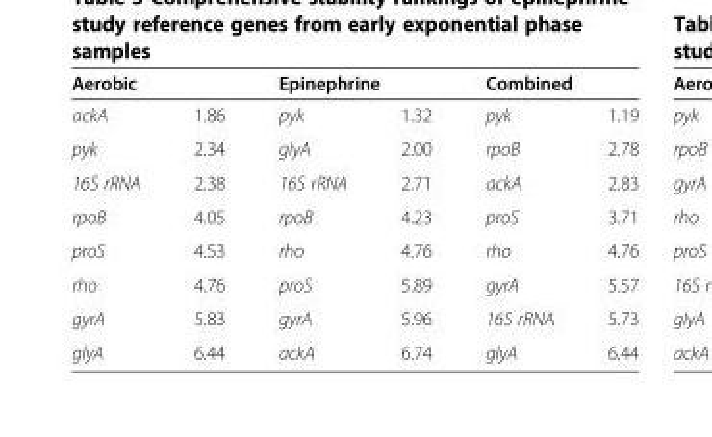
<table><thead><tr><td colspan="2">Aerobic</td><td colspan="2">Epinephrine</td><td colspan="2">Combined</td></tr><tr><td>ackA</td><td>1.86</td><td>pyk</td><td>1.32</td><td>pyk</td><td>1.19</td></tr></thead><tbody><tr><td>pyk</td><td>2.34</td><td>glyA</td><td>2.00</td><td>rpoB</td><td>2.78</td></tr><tr><td>16S rRNA</td><td>2.38</td><td>16S rRNA</td><td>2.71</td><td>ackA</td><td>2.83</td></tr><tr><td>rpoB</td><td>4.05</td><td>rpoB</td><td>4.23</td><td>proS</td><td>3.71</td></tr><tr><td>proS</td><td>4.53</td><td>rho</td><td>4.76</td><td>rho</td><td>4.76</td></tr><tr><td>rho</td><td>4.76</td><td>proS</td><td>5.89</td><td>gyrA</td><td>5.57</td></tr><tr><td>gyrA</td><td>5.83</td><td>gyrA</td><td>5.96</td><td>16S rRNA</td><td>5.73</td></tr><tr><td>glyA</td><td>6.44</td><td>ackA</td><td>6.74</td><td>glyA</td><td>6.44</td></tr></tbody></table>